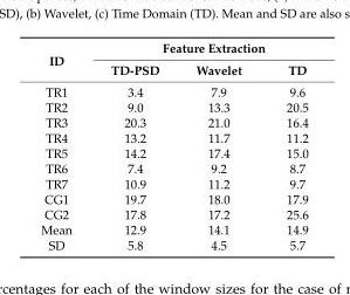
<table><thead><tr><td rowspan="2">ID</td><td colspan="3">Feature Extraction</td></tr><tr><td>TD-PSD</td><td>Wavelet</td><td>TD</td></tr></thead><tbody><tr><td>TR1</td><td>3.4</td><td>7.9</td><td>9.6</td></tr><tr><td>TR2</td><td>9.0</td><td>13.3</td><td>20.5</td></tr><tr><td>TR3</td><td>20.3</td><td>21.0</td><td>16.4</td></tr><tr><td>TR4</td><td>13.2</td><td>11.7</td><td>11.2</td></tr><tr><td>TR5</td><td>14.2</td><td>17.4</td><td>15.0</td></tr><tr><td>TR6</td><td>7.4</td><td>9.2</td><td>8.7</td></tr><tr><td>TR7</td><td>10.9</td><td>11.2</td><td>9.7</td></tr><tr><td>CG1</td><td>19.7</td><td>18.0</td><td>17.9</td></tr><tr><td>CG2</td><td>17.8</td><td>17.2</td><td>25.6</td></tr><tr><td>Mean</td><td>12.9</td><td>14.1</td><td>14.9</td></tr><tr><td>SD</td><td>5.8</td><td>4.5</td><td>5.7</td></tr></tbody></table>